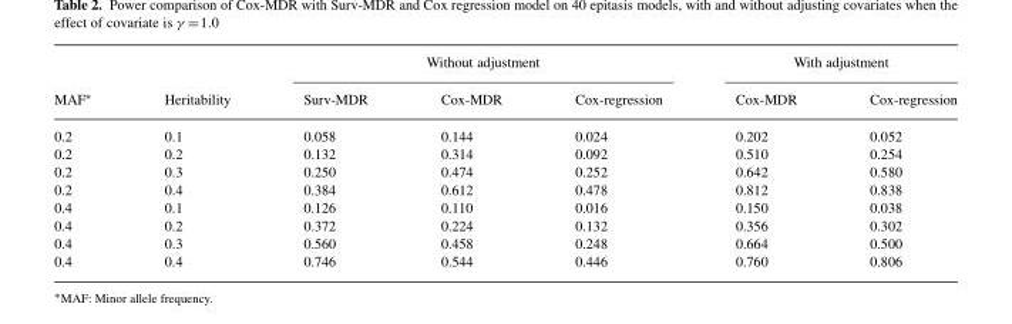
<table><thead><tr><td rowspan="2">MAF∗</td><td rowspan="2">Heritability</td><td colspan="3">Without adjustment</td><td colspan="2">With adjustment</td></tr><tr><td>Surv-MDR</td><td>Cox-MDR</td><td>Cox-regression</td><td>Cox-MDR</td><td>Cox-regression</td></tr></thead><tbody><tr><td>0.2</td><td>0.1</td><td>0.058</td><td>0.144</td><td>0.024</td><td>0.202</td><td>0.052</td></tr><tr><td>0.2</td><td>0.2</td><td>0.132</td><td>0.314</td><td>0.092</td><td>0.510</td><td>0.254</td></tr><tr><td>0.2</td><td>0.3</td><td>0.250</td><td>0.474</td><td>0.252</td><td>0.642</td><td>0.580</td></tr><tr><td>0.2</td><td>0.4</td><td>0.384</td><td>0.612</td><td>0.478</td><td>0.812</td><td>0.838</td></tr><tr><td>0.4</td><td>0.1</td><td>0.126</td><td>0.110</td><td>0.016</td><td>0.150</td><td>0.038</td></tr><tr><td>0.4</td><td>0.2</td><td>0.372</td><td>0.224</td><td>0.132</td><td>0.356</td><td>0.302</td></tr><tr><td>0.4</td><td>0.3</td><td>0.560</td><td>0.458</td><td>0.248</td><td>0.664</td><td>0.500</td></tr><tr><td>0.4</td><td>0.4</td><td>0.746</td><td>0.544</td><td>0.446</td><td>0.760</td><td>0.806</td></tr></tbody></table>